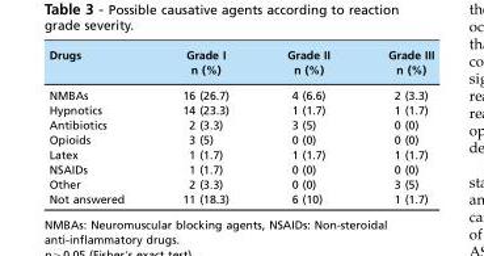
<table><thead><tr><td rowspan="2">Drugs</td><td rowspan="2">Grade I n (%)</td><td rowspan="2">Grade II n (%)</td><td rowspan="2">Grade III n (%)</td></tr><tr></tr></thead><tbody><tr><td>NMBAs</td><td>16 (26.7)</td><td>4 (6.6)</td><td>2 (3.3)</td></tr><tr><td>Hypnotics</td><td>14 (23.3)</td><td>1 (1.7)</td><td>1 (1.7)</td></tr><tr><td>Antibiotics</td><td>2 (3.3)</td><td>3 (5)</td><td>0 (0)</td></tr><tr><td>Opioids</td><td>3 (5)</td><td>0 (0)</td><td>0 (0)</td></tr><tr><td>Latex</td><td>1 (1.7)</td><td>1 (1.7)</td><td>1 (1.7)</td></tr><tr><td>NSAIDs</td><td>1 (1.7)</td><td>0 (0)</td><td>0 (0)</td></tr><tr><td>Other</td><td>2 (3.3)</td><td>0 (0)</td><td>3 (5)</td></tr><tr><td>Not answered</td><td>11 (18.3)</td><td>6 (10)</td><td>1 (1.7)</td></tr></tbody></table>